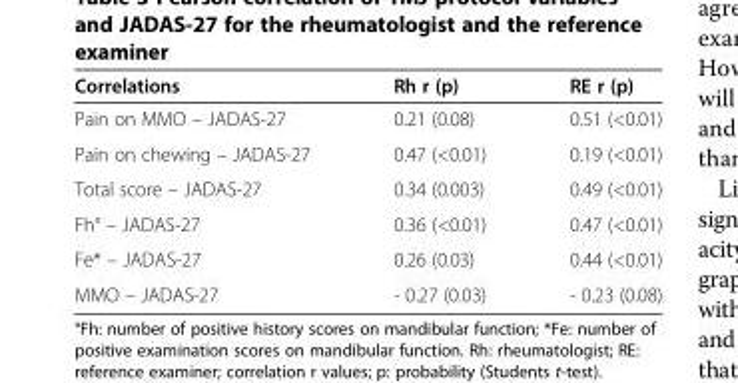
<table><thead><tr><td>Correlations</td><td>Rh r (p)</td><td>RE r (p)</td></tr></thead><tbody><tr><td>Pain on MMO – JADAS-27</td><td>0.21 (0.08)</td><td>0.51 (&lt;0.01)</td></tr><tr><td>Pain on chewing – JADAS-27</td><td>0.47 (&lt;0.01)</td><td>0.19 (&lt;0.01)</td></tr><tr><td>Total score – JADAS-27</td><td>0.34 (0.003)</td><td>0.49 (&lt;0.01)</td></tr><tr><td>Fh° – JADAS-27</td><td>0.36 (&lt;0.01)</td><td>0.47 (&lt;0.01)</td></tr><tr><td>Fe* – JADAS-27</td><td>0.26 (0.03)</td><td>0.44 (&lt;0.01)</td></tr><tr><td>MMO – JADAS-27</td><td>- 0.27 (0.03)</td><td>- 0.23 (0.08)</td></tr></tbody></table>